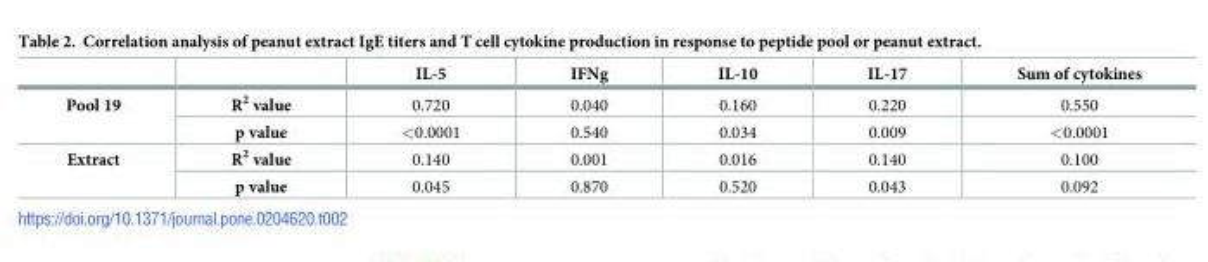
<table><thead><tr><td></td><td></td><td>IL-5</td><td>IFNg</td><td>IL-10</td><td>IL-17</td><td>Sum of cytokines</td></tr></thead><tbody><tr><td rowspan="2">Pool 19</td><td>R<sup>2</sup> value</td><td>0.720</td><td>0.040</td><td>0.160</td><td>0.220</td><td>0.550</td></tr><tr><td>p value</td><td>&lt;0.0001</td><td>0.540</td><td>0.034</td><td>0.009</td><td>&lt;0.0001</td></tr><tr><td rowspan="2">Extract</td><td>R<sup>2</sup> value</td><td>0.140</td><td>0.001</td><td>0.016</td><td>0.140</td><td>0.100</td></tr><tr><td>p value</td><td>0.045</td><td>0.870</td><td>0.520</td><td>0.043</td><td>0.092</td></tr></tbody></table>